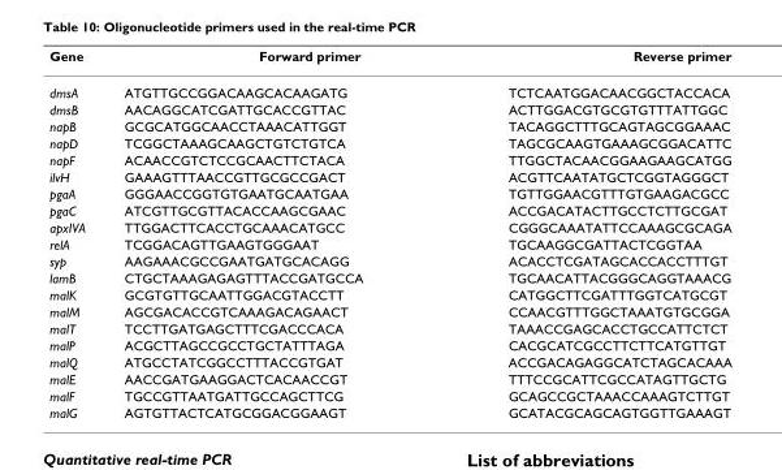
<table><thead><tr><td>Gene</td><td>Forward primer</td><td>Reverse primer</td></tr></thead><tbody><tr><td>dmsA</td><td>ATGTTGCCGGACAAGCACAAGATG</td><td>TCTCAATGGACAACGGCTACCACA</td></tr><tr><td>dmsB</td><td>AACAGGCATCGATTGCACCGTTAC</td><td>ACTTGGACGTGCGTGTTTATTGGC</td></tr><tr><td>napB</td><td>GCGCATGGCAACCTAAACATTGGT</td><td>TACAGGCTTTGCAGTAGCGGAAAC</td></tr><tr><td>napD</td><td>TCGGCTAAAGCAAGCTGTCTGTCA</td><td>TAGCGCAAGTGAAAGCGGACATTC</td></tr><tr><td>napF</td><td>ACAACCGTCTCCGCAACTTCTACA</td><td>TTGGCTACAACGGAAGAAGCATGG</td></tr><tr><td>ilvH</td><td>GAAAGTTTAACCGTTGCGCCGACT</td><td>ACGTTCAATATGCTCGGTAGGGCT</td></tr><tr><td>pgaA</td><td>GGGAACCGGTGTGAATGCAATGAA</td><td>TGTTGGAACGTTTGTGAAGACGCC</td></tr><tr><td>pgaC</td><td>ATCGTTGCGTTACACCAAGCGAAC</td><td>ACCGACATACTTGCCTCTTGCGAT</td></tr><tr><td>apxIVA</td><td>TTGGACTTCACCTGCAAACATGCC</td><td>CGGGCAAATATTCCAAAGCGCAGA</td></tr><tr><td>relA</td><td>TCGGACAGTTGAAGTGGGAAT</td><td>TGCAAGGCGATTACTCGGTAA</td></tr><tr><td>syp</td><td>AAGAAACGCCGAATGATGCACAGG</td><td>ACACCTCGATAGCACCACCTTTGT</td></tr><tr><td>lamB</td><td>CTGCTAAAGAGAGTTTACCGATGCCA</td><td>TGCAACATTACGGGCAGGTAAACG</td></tr><tr><td>malK</td><td>GCGTGTTGCAATTGGACGTACCTT</td><td>CATGGCTTCGATTTGGTCATGCGT</td></tr><tr><td>malM</td><td>AGCGACACCGTCAAAGACAGAACT</td><td>CCAACGTTTGGCTAAATGTGCGGA</td></tr><tr><td>malT</td><td>TCCTTGATGAGCTTTCGACCCACA</td><td>TAAACCGAGCACCTGCCATTCTCT</td></tr><tr><td>malP</td><td>ACGCTTAGCCGCCTGCTATTTAGA</td><td>CACGCATCGCCTTCTTCATGTTGT</td></tr><tr><td>malQ</td><td>ATGCCTATCGGCCTTTACCGTGAT</td><td>ACCGACAGAGGCATCTAGCACAAA</td></tr><tr><td>malE</td><td>AACCGATGAAGGACTCACAACCGT</td><td>TTTCCGCATTCGCCATAGTTGCTG</td></tr><tr><td>malF</td><td>TGCCGTTAATGATTGCCAGCTTCG</td><td>GCAGCCGCTAAACCAAAGTCTTGT</td></tr><tr><td>malG</td><td>AGTGTTACTCATGCGGACGGAAGT</td><td>GCATACGCAGCAGTGGTTGAAAGT</td></tr></tbody></table>